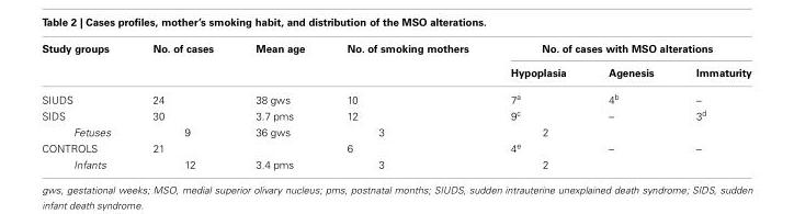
<table><thead><tr><td rowspan="2">Study groups</td><td rowspan="2">No. of cases</td><td rowspan="2">Mean age</td><td rowspan="2">No. of smoking mothers</td><td colspan="3">No. of cases with MSO alterations</td></tr><tr><td>Hypoplasia</td><td>Agenesis</td><td>Immaturity</td></tr></thead><tbody><tr><td>SIUDS</td><td>24</td><td>38 gws</td><td>10</td><td>7<sup>a</sup></td><td>4<sup>b</sup></td><td>–</td></tr><tr><td>SIDS</td><td>30</td><td>3.7 pms</td><td>12</td><td>9<sup>c</sup></td><td>–</td><td>3<sup>d</sup></td></tr><tr><td>Fetuses</td><td>9</td><td>36 gws</td><td>3</td><td>2</td><td></td><td></td></tr><tr><td>CONTROLS</td><td>21</td><td></td><td>6</td><td>4<sup>e</sup></td><td>–</td><td>–</td></tr><tr><td>Infants</td><td>12</td><td>3.4 pms</td><td>3</td><td>2</td><td></td><td></td></tr></tbody></table>